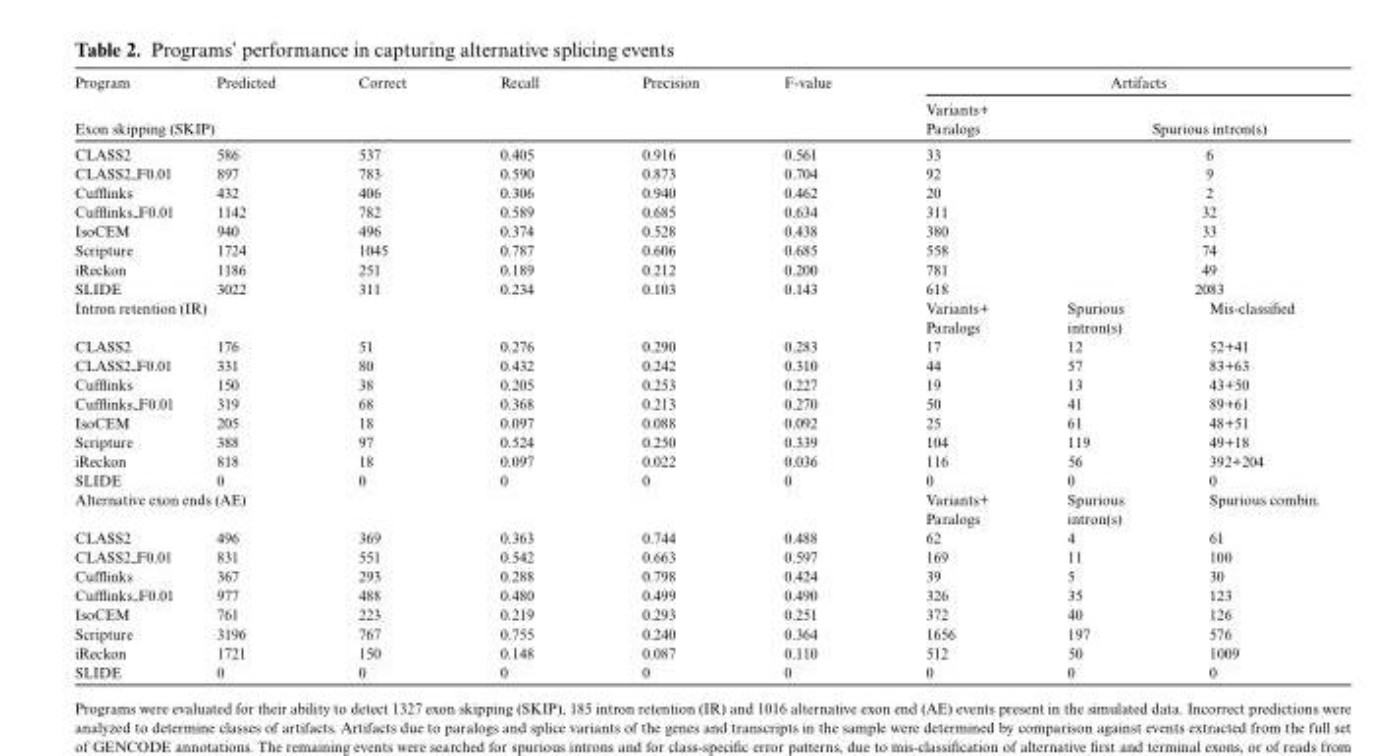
<table><thead><tr><td>Program</td><td>Predicted</td><td>Correct</td><td>Recall</td><td>Precision</td><td>F-value</td><td colspan="3">Artifacts</td></tr><tr><td colspan="6">Exon skipping (SKIP)</td><td>Variants+ Paralogs</td><td colspan="2">Spurious intron(s)</td></tr></thead><tbody><tr><td>CLASS2</td><td>586</td><td>537</td><td>0.405</td><td>0.916</td><td>0.561</td><td>33</td><td colspan="2">6</td></tr><tr><td>CLASS2 F0.01</td><td>897</td><td>783</td><td>0.590</td><td>0.873</td><td>0.704</td><td>92</td><td colspan="2">9</td></tr><tr><td>Cufflinks</td><td>432</td><td>406</td><td>0.306</td><td>0.940</td><td>0.462</td><td>20</td><td colspan="2">2</td></tr><tr><td>Cufflinks F0.01</td><td>1142</td><td>782</td><td>0.589</td><td>0.685</td><td>0.634</td><td>311</td><td colspan="2">32</td></tr><tr><td>IsoCEM</td><td>940</td><td>496</td><td>0.374</td><td>0.528</td><td>0.438</td><td>380</td><td colspan="2">33</td></tr><tr><td>Scripture</td><td>1724</td><td>1045</td><td>0.787</td><td>0.606</td><td>0.685</td><td>558</td><td colspan="2">74</td></tr><tr><td>iReckon</td><td>1186</td><td>251</td><td>0.189</td><td>0.212</td><td>0.200</td><td>781</td><td colspan="2">49</td></tr><tr><td>SLIDE</td><td>3022</td><td>311</td><td>0.234</td><td>0.103</td><td>0.143</td><td>618</td><td colspan="2">2083</td></tr><tr><td colspan="6">Intron retention (IR)</td><td>Variants+ Paralogs</td><td>Spurious intron(s)</td><td>Mis-classified</td></tr><tr><td>CLASS2</td><td>176</td><td>51</td><td>0.276</td><td>0.290</td><td>0.283</td><td>17</td><td>12</td><td>52+41</td></tr><tr><td>CLASS2 F0.01</td><td>331</td><td>80</td><td>0.432</td><td>0.242</td><td>0.310</td><td>44</td><td>57</td><td>83+63</td></tr><tr><td>Cufflinks</td><td>150</td><td>38</td><td>0.205</td><td>0.253</td><td>0.227</td><td>19</td><td>13</td><td>43+50</td></tr><tr><td>Cufflinks F0.01</td><td>319</td><td>68</td><td>0.368</td><td>0.213</td><td>0.270</td><td>50</td><td>41</td><td>89+61</td></tr><tr><td>IsoCEM</td><td>205</td><td>18</td><td>0.097</td><td>0.088</td><td>0.092</td><td>25</td><td>61</td><td>48+51</td></tr><tr><td>Scripture</td><td>388</td><td>97</td><td>0.524</td><td>0.250</td><td>0.339</td><td>104</td><td>119</td><td>49+18</td></tr><tr><td>iReckon</td><td>818</td><td>18</td><td>0.097</td><td>0.022</td><td>0.036</td><td>116</td><td>56</td><td>392+204</td></tr><tr><td>SLIDE</td><td>0</td><td>0</td><td>0</td><td>0</td><td>0</td><td>0</td><td>0</td><td>0</td></tr><tr><td colspan="6">Alternative exon ends (AE)</td><td>Variants+ Paralogs</td><td>Spurious intron(s)</td><td>Spurious combin.</td></tr><tr><td>CLASS2</td><td>496</td><td>369</td><td>0.363</td><td>0.744</td><td>0.488</td><td>62</td><td>4</td><td>61</td></tr><tr><td>CLASS2 F0.01</td><td>831</td><td>551</td><td>0.542</td><td>0.663</td><td>0.597</td><td>169</td><td>11</td><td>100</td></tr><tr><td>Cufflinks</td><td>367</td><td>293</td><td>0.288</td><td>0.798</td><td>0.424</td><td>39</td><td>5</td><td>30</td></tr><tr><td>Cufflinks F0.01</td><td>977</td><td>488</td><td>0.480</td><td>0.499</td><td>0.490</td><td>326</td><td>35</td><td>123</td></tr><tr><td>IsoCEM</td><td>761</td><td>223</td><td>0.219</td><td>0.293</td><td>0.251</td><td>372</td><td>40</td><td>126</td></tr><tr><td>Scripture</td><td>3196</td><td>767</td><td>0.755</td><td>0.240</td><td>0.364</td><td>1656</td><td>197</td><td>576</td></tr><tr><td>iReckon</td><td>1721</td><td>150</td><td>0.148</td><td>0.087</td><td>0.110</td><td>512</td><td>50</td><td>1009</td></tr><tr><td>SLIDE</td><td>0</td><td>0</td><td>0</td><td>0</td><td>0</td><td>0</td><td>0</td><td>0</td></tr></tbody></table>